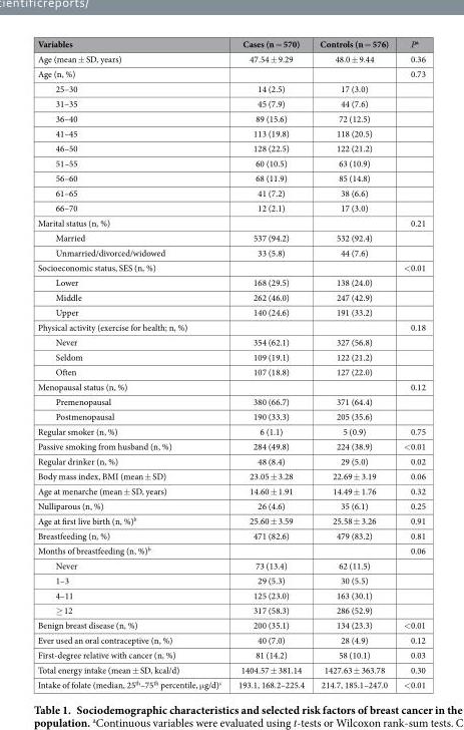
<table><thead><tr><td>Variables</td><td>Cases (n = 570)</td><td>Controls (n = 576)</td><td>P<sup>a</sup></td></tr></thead><tbody><tr><td>Age (mean ± SD, years)</td><td>47.54 ± 9.29</td><td>48.0 ± 9.44</td><td>0.36</td></tr><tr><td>Age (n, %)</td><td></td><td></td><td>0.73</td></tr><tr><td>25–30</td><td>14 (2.5)</td><td>17 (3.0)</td><td></td></tr><tr><td>31–35</td><td>45 (7.9)</td><td>44 (7.6)</td><td></td></tr><tr><td>36–40</td><td>89 (15.6)</td><td>72 (12.5)</td><td></td></tr><tr><td>41–45</td><td>113 (19.8)</td><td>118 (20.5)</td><td></td></tr><tr><td>46–50</td><td>128 (22.5)</td><td>122 (21.2)</td><td></td></tr><tr><td>51–55</td><td>60 (10.5)</td><td>63 (10.9)</td><td></td></tr><tr><td>56–60</td><td>68 (11.9)</td><td>85 (14.8)</td><td></td></tr><tr><td>61–65</td><td>41 (7.2)</td><td>38 (6.6)</td><td></td></tr><tr><td>66–70</td><td>12 (2.1)</td><td>17 (3.0)</td><td></td></tr><tr><td>Marital status (n, %)</td><td></td><td></td><td>0.21</td></tr><tr><td>Married</td><td>537 (94.2)</td><td>532 (92.4)</td><td></td></tr><tr><td>Unmarried/divorced/widowed</td><td>33 (5.8)</td><td>44 (7.6)</td><td></td></tr><tr><td>Socioeconomic status, SES (n, %)</td><td></td><td></td><td>&lt; 0.01</td></tr><tr><td>Lower</td><td>168 (29.5)</td><td>138 (24.0)</td><td></td></tr><tr><td>Middle</td><td>262 (46.0)</td><td>247 (42.9)</td><td></td></tr><tr><td>Upper</td><td>140 (24.6)</td><td>191 (33.2)</td><td></td></tr><tr><td>Physical activity (exercise for health; n, %)</td><td></td><td></td><td>0.18</td></tr><tr><td>Never</td><td>354 (62.1)</td><td>327 (56.8)</td><td></td></tr><tr><td>Seldom</td><td>109 (19.1)</td><td>122 (21.2)</td><td></td></tr><tr><td>Often</td><td>107 (18.8)</td><td>127 (22.0)</td><td></td></tr><tr><td>Menopausal status (n, %)</td><td></td><td></td><td>0.12</td></tr><tr><td>Premenopausal</td><td>380 (66.7)</td><td>371 (64.4)</td><td></td></tr><tr><td>Postmenopausal</td><td>190 (33.3)</td><td>205 (35.6)</td><td></td></tr><tr><td>Regular smoker (n, %)</td><td>6 (1.1)</td><td>5 (0.9)</td><td>0.75</td></tr><tr><td>Passive smoking from husband (n, %)</td><td>284 (49.8)</td><td>224 (38.9)</td><td>&lt; 0.01</td></tr><tr><td>Regular drinker (n, %)</td><td>48 (8.4)</td><td>29 (5.0)</td><td>0.02</td></tr><tr><td>Body mass index, BMI (mean ± SD)</td><td>23.05 ± 3.28</td><td>22.69 ± 3.19</td><td>0.06</td></tr><tr><td>Age at menarche (mean ± SD, years)</td><td>14.60 ± 1.91</td><td>14.49 ± 1.76</td><td>0.32</td></tr><tr><td>Nulliparous (n, %)</td><td>26 (4.6)</td><td>35 (6.1)</td><td>0.25</td></tr><tr><td>Age at first live birth (n, %)<sup>b</sup></td><td>25.60 ± 3.59</td><td>25.58 ± 3.26</td><td>0.91</td></tr><tr><td>Breastfeeding (n, %)</td><td>471 (82.6)</td><td>479 (83.2)</td><td>0.81</td></tr><tr><td>Months of breastfeeding (n, %)<sup>b</sup></td><td></td><td></td><td>0.06</td></tr><tr><td>Never</td><td>73 (13.4)</td><td>62 (11.5)</td><td></td></tr><tr><td>1–3</td><td>29 (5.3)</td><td>30 (5.5)</td><td></td></tr><tr><td>4–11</td><td>125 (23.0)</td><td>163 (30.1)</td><td></td></tr><tr><td>≥ 12</td><td>317 (58.3)</td><td>286 (52.9)</td><td></td></tr><tr><td>Benign breast disease (n, %)</td><td>200 (35.1)</td><td>134 (23.3)</td><td>&lt; 0.01</td></tr><tr><td>Ever used an oral contraceptive (n, %)</td><td>40 (7.0)</td><td>28 (4.9)</td><td>0.12</td></tr><tr><td>First-degree relative with cancer (n, %)</td><td>81 (14.2)</td><td>58 (10.1)</td><td>0.03</td></tr><tr><td>Total energy intake (mean ± SD, kcal/d)</td><td>1404.57 ± 381.14</td><td>1427.63 ± 363.78</td><td>0.30</td></tr><tr><td>Intake of folate (median, 25<sup>th</sup>–75<sup>th</sup> percentile, μ g/d)<sup>c</sup></td><td>193.1, 168.2–225.4</td><td>214.7, 185.1–247.0</td><td>&lt; 0.01</td></tr></tbody></table>